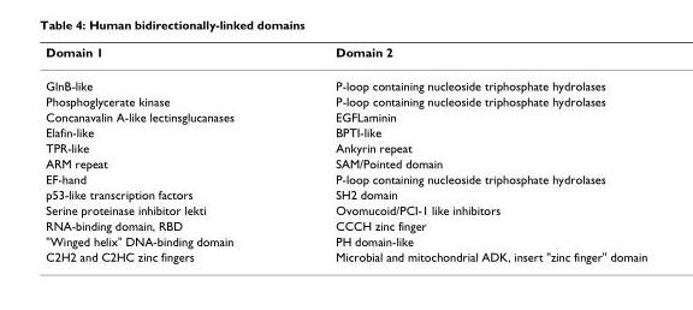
<table><thead><tr><td>Domain 1</td><td>Domain 2</td></tr></thead><tbody><tr><td>GlnB-like</td><td>P-loop containing nucleoside triphosphate hydrolases</td></tr><tr><td>Phosphoglycerate kinase</td><td>P-loop containing nucleoside triphosphate hydrolases</td></tr><tr><td>Concanavalin A-like lectinsglucanases</td><td>EGFLaminin</td></tr><tr><td>Elafin-like</td><td>BPTI-like</td></tr><tr><td>TPR-like</td><td>Ankyrin repeat</td></tr><tr><td>ARM repeat</td><td>SAM/Pointed domain</td></tr><tr><td>EF-hand</td><td>P-loop containing nucleoside triphosphate hydrolases</td></tr><tr><td>p53-like transcription factors</td><td>SH2 domain</td></tr><tr><td>Serine proteinase inhibitor lekti</td><td>Ovomucoid/PCI-1 like inhibitors</td></tr><tr><td>RNA-binding domain, RBD</td><td>CCCH zinc finger</td></tr><tr><td>&quot;Winged helix&quot; DNA-binding domain</td><td>PH domain-like</td></tr><tr><td>C2H2 and C2HC zinc fingers</td><td>Microbial and mitochondrial ADK, insert &quot;zinc finger&quot; domain</td></tr></tbody></table>